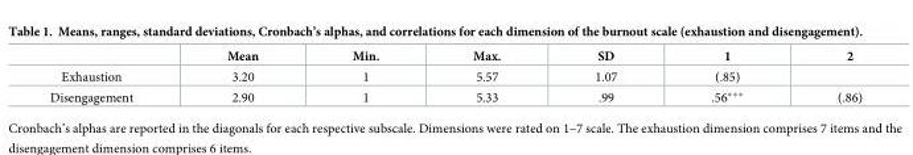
<table><thead><tr><td></td><td>Mean</td><td>Min.</td><td>Max.</td><td>SD</td><td>1</td><td>2</td></tr></thead><tbody><tr><td>Exhaustion</td><td>3.20</td><td>1</td><td>5.57</td><td>1.07</td><td>(.85)</td><td></td></tr><tr><td>Disengagement</td><td>2.90</td><td>1</td><td>5.33</td><td>.99</td><td>.56***</td><td>(.86)</td></tr></tbody></table>